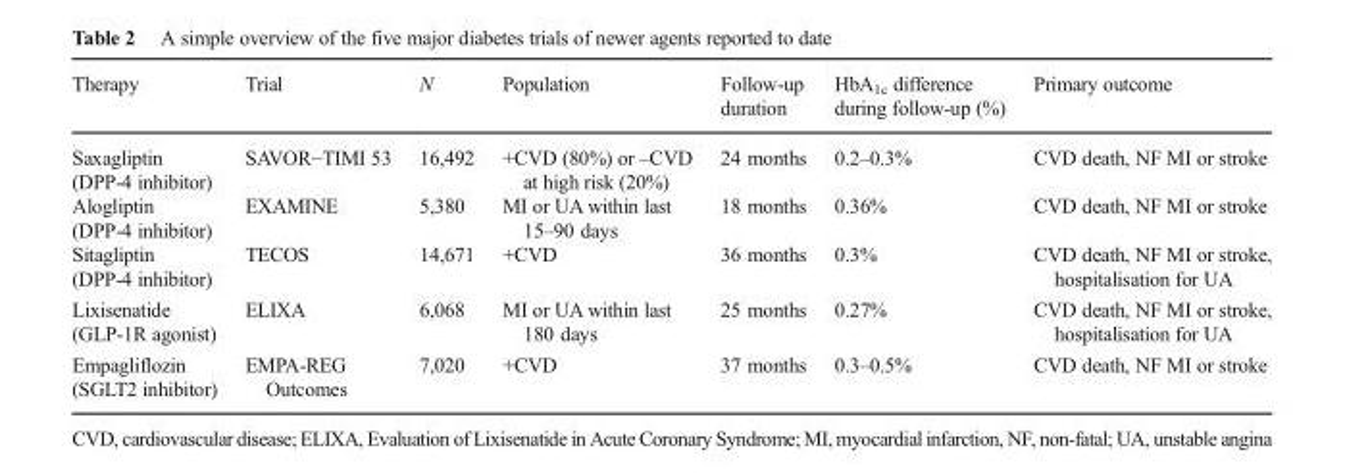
<table><thead><tr><td>Therapy</td><td>Trial</td><td>N</td><td>Population</td><td>Follow-up duration</td><td>HbA<sub>1c</sub> difference during follow-up (%)</td><td>Primary outcome</td></tr></thead><tbody><tr><td>Saxagliptin (DPP-4 inhibitor)</td><td>SAVOR−TIMI 53</td><td>16,492</td><td>+CVD (80%) or –CVD at high risk (20%)</td><td>24 months</td><td>0.2–0.3%</td><td>CVD death, NF MI or stroke</td></tr><tr><td>Alogliptin (DPP-4 inhibitor)</td><td>EXAMINE</td><td>5,380</td><td>MI or UA within last 15–90 days</td><td>18 months</td><td>0.36%</td><td>CVD death, NF MI or stroke</td></tr><tr><td>Sitagliptin (DPP-4 inhibitor)</td><td>TECOS</td><td>14,671</td><td>+CVD</td><td>36 months</td><td>0.3%</td><td>CVD death, NF MI or stroke, hospitalisation for UA</td></tr><tr><td>Lixisenatide (GLP-1R agonist)</td><td>ELIXA</td><td>6,068</td><td>MI or UA within last 180 days</td><td>25 months</td><td>0.27%</td><td>CVD death, NF MI or stroke, hospitalisation for UA</td></tr><tr><td>Empagliflozin (SGLT2 inhibitor)</td><td>EMPA-REG Outcomes</td><td>7,020</td><td>+CVD</td><td>37 months</td><td>0.3–0.5%</td><td>CVD death, NF MI or stroke</td></tr></tbody></table>